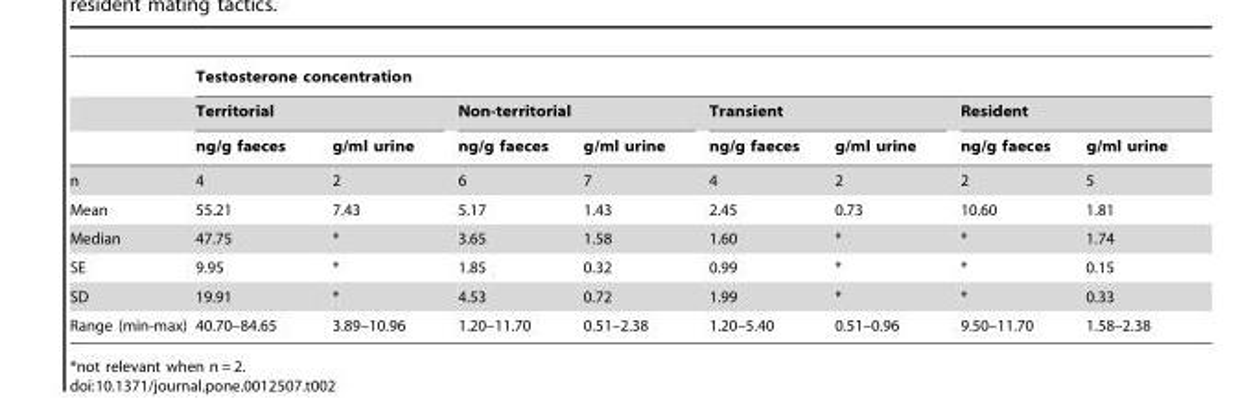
<table><thead><tr><td rowspan="3"></td><td colspan="8">Testosterone concentration</td></tr><tr><td colspan="2">Territorial</td><td colspan="2">Non-territorial</td><td colspan="2">Transient</td><td colspan="2">Resident</td></tr><tr><td>ng/g faeces</td><td>g/ml urine</td><td>ng/g faeces</td><td>g/ml urine</td><td>ng/g faeces</td><td>g/ml urine</td><td>ng/g faeces</td><td>g/ml urine</td></tr></thead><tbody><tr><td>n</td><td>4</td><td>2</td><td>6</td><td>7</td><td>4</td><td>2</td><td>2</td><td>5</td></tr><tr><td>Mean</td><td>55.21</td><td>7.43</td><td>5.17</td><td>1.43</td><td>2.45</td><td>0.73</td><td>10.60</td><td>1.81</td></tr><tr><td>Median</td><td>47.75</td><td>*</td><td>3.65</td><td>1.58</td><td>1.60</td><td>*</td><td>*</td><td>1.74</td></tr><tr><td>SE</td><td>9.95</td><td>*</td><td>1.85</td><td>0.32</td><td>0.99</td><td>*</td><td>*</td><td>0.15</td></tr><tr><td>SD</td><td>19.91</td><td>*</td><td>4.53</td><td>0.72</td><td>1.99</td><td>*</td><td>*</td><td>0.33</td></tr><tr><td>Range (min-max)</td><td>40.70–84.65</td><td>3.89–10.96</td><td>1.20–11.70</td><td>0.51–2.38</td><td>1.20–5.40</td><td>0.51–0.96</td><td>9.50–11.70</td><td>1.58–2.38</td></tr></tbody></table>